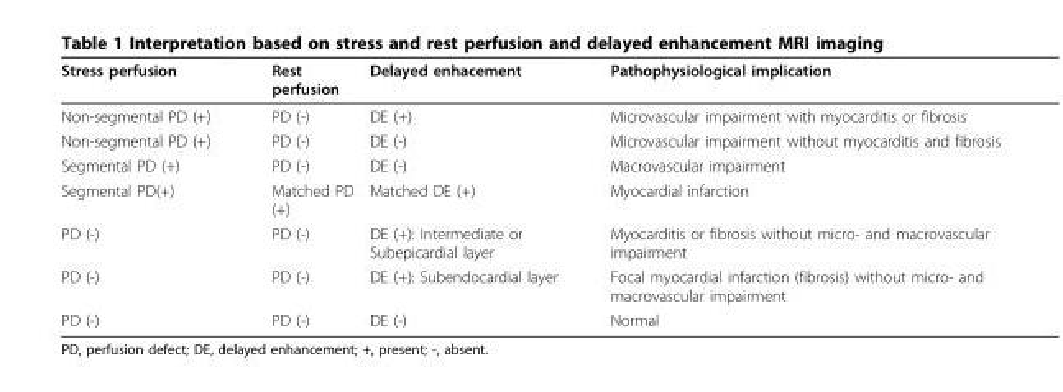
<table><thead><tr><td>Stress perfusion</td><td>Rest perfusion</td><td>Delayed enhacement</td><td>Pathophysiological implication</td></tr></thead><tbody><tr><td>Non-segmental PD (+)</td><td>PD (-)</td><td>DE (+)</td><td>Microvascular impairment with myocarditis or fibrosis</td></tr><tr><td>Non-segmental PD (+)</td><td>PD (-)</td><td>DE (-)</td><td>Microvascular impairment without myocarditis and fibrosis</td></tr><tr><td>Segmental PD (+)</td><td>PD (-)</td><td>DE (-)</td><td>Macrovascular impairment</td></tr><tr><td>Segmental PD(+)</td><td>Matched PD (+)</td><td>Matched DE (+)</td><td>Myocardial infarction</td></tr><tr><td>PD (-)</td><td>PD (-)</td><td>DE (+): Intermediate or Subepicardial layer</td><td>Myocarditis or fibrosis without micro- and macrovascular impairment</td></tr><tr><td>PD (-)</td><td>PD (-)</td><td>DE (+): Subendocardial layer</td><td>Focal myocardial infarction (fibrosis) without micro- and macrovascular impairment</td></tr><tr><td>PD (-)</td><td>PD (-)</td><td>DE (-)</td><td>Normal</td></tr></tbody></table>